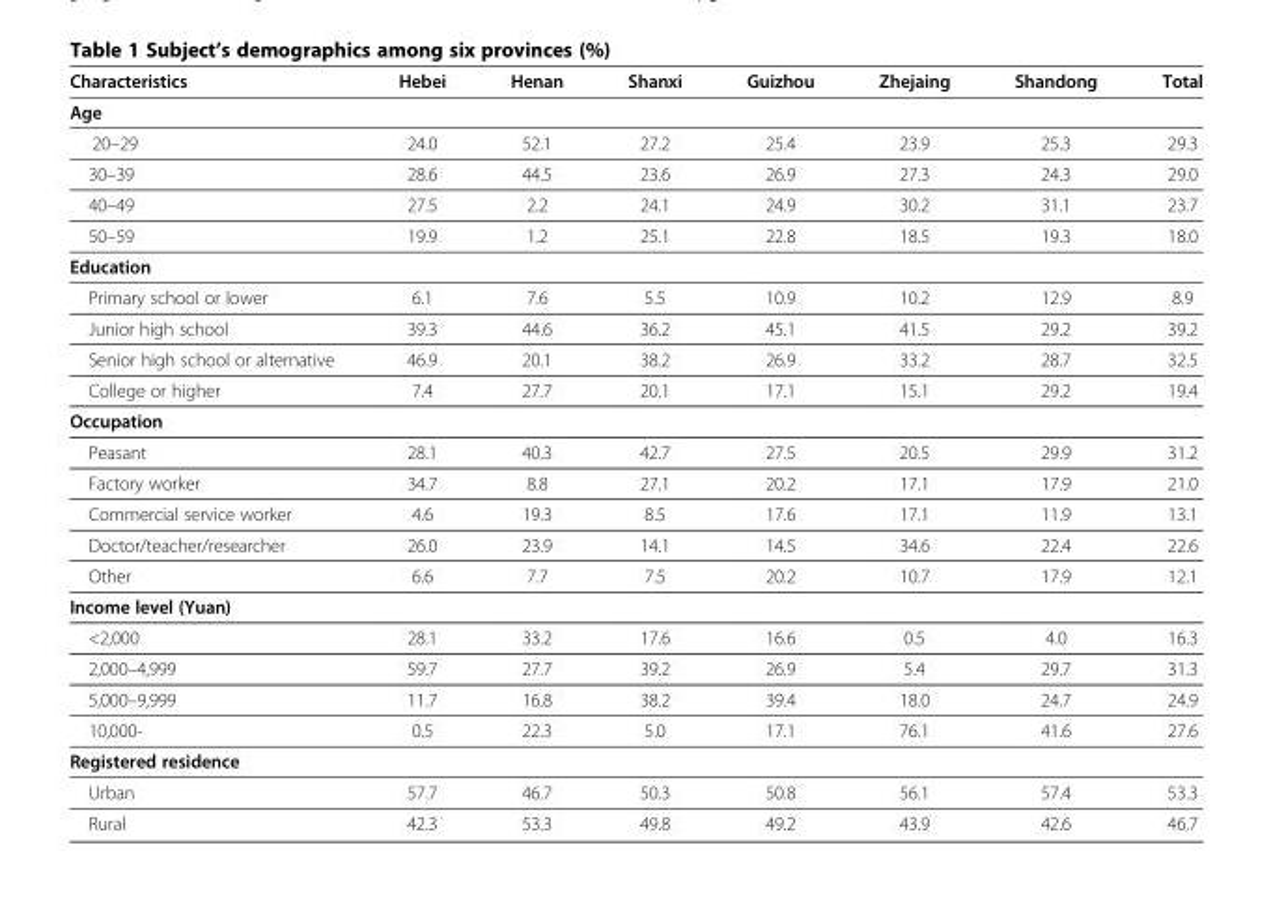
<table><thead><tr><td>Characteristics</td><td>Hebei</td><td>Henan</td><td>Shanxi</td><td>Guizhou</td><td>Zhejaing</td><td>Shandong</td><td>Total</td></tr></thead><tbody><tr><td colspan="8">Age</td></tr><tr><td>20–29</td><td>24.0</td><td>52.1</td><td>27.2</td><td>25.4</td><td>23.9</td><td>25.3</td><td>29.3</td></tr><tr><td>30–39</td><td>28.6</td><td>44.5</td><td>23.6</td><td>26.9</td><td>27.3</td><td>24.3</td><td>29.0</td></tr><tr><td>40–49</td><td>27.5</td><td>2.2</td><td>24.1</td><td>24.9</td><td>30.2</td><td>31.1</td><td>23.7</td></tr><tr><td>50–59</td><td>19.9</td><td>1.2</td><td>25.1</td><td>22.8</td><td>18.5</td><td>19.3</td><td>18.0</td></tr><tr><td colspan="8">Education</td></tr><tr><td>Primary school or lower</td><td>6.1</td><td>7.6</td><td>5.5</td><td>10.9</td><td>10.2</td><td>12.9</td><td>8.9</td></tr><tr><td>Junior high school</td><td>39.3</td><td>44.6</td><td>36.2</td><td>45.1</td><td>41.5</td><td>29.2</td><td>39.2</td></tr><tr><td>Senior high school or alternative</td><td>46.9</td><td>20.1</td><td>38.2</td><td>26.9</td><td>33.2</td><td>28.7</td><td>32.5</td></tr><tr><td>College or higher</td><td>7.4</td><td>27.7</td><td>20.1</td><td>17.1</td><td>15.1</td><td>29.2</td><td>19.4</td></tr><tr><td colspan="8">Occupation</td></tr><tr><td>Peasant</td><td>28.1</td><td>40.3</td><td>42.7</td><td>27.5</td><td>20.5</td><td>29.9</td><td>31.2</td></tr><tr><td>Factory worker</td><td>34.7</td><td>8.8</td><td>27.1</td><td>20.2</td><td>17.1</td><td>17.9</td><td>21.0</td></tr><tr><td>Commercial service worker</td><td>4.6</td><td>19.3</td><td>8.5</td><td>17.6</td><td>17.1</td><td>11.9</td><td>13.1</td></tr><tr><td>Doctor/teacher/researcher</td><td>26.0</td><td>23.9</td><td>14.1</td><td>14.5</td><td>34.6</td><td>22.4</td><td>22.6</td></tr><tr><td>Other</td><td>6.6</td><td>7.7</td><td>7.5</td><td>20.2</td><td>10.7</td><td>17.9</td><td>12.1</td></tr><tr><td colspan="8">Income level (Yuan)</td></tr><tr><td>&lt;2,000</td><td>28.1</td><td>33.2</td><td>17.6</td><td>16.6</td><td>0.5</td><td>4.0</td><td>16.3</td></tr><tr><td>2,000–4,999</td><td>59.7</td><td>27.7</td><td>39.2</td><td>26.9</td><td>5.4</td><td>29.7</td><td>31.3</td></tr><tr><td>5,000–9,999</td><td>11.7</td><td>16.8</td><td>38.2</td><td>39.4</td><td>18.0</td><td>24.7</td><td>24.9</td></tr><tr><td>10,000-</td><td>0.5</td><td>22.3</td><td>5.0</td><td>17.1</td><td>76.1</td><td>41.6</td><td>27.6</td></tr><tr><td colspan="8">Registered residence</td></tr><tr><td>Urban</td><td>57.7</td><td>46.7</td><td>50.3</td><td>50.8</td><td>56.1</td><td>57.4</td><td>53.3</td></tr><tr><td>Rural</td><td>42.3</td><td>53.3</td><td>49.8</td><td>49.2</td><td>43.9</td><td>42.6</td><td>46.7</td></tr></tbody></table>